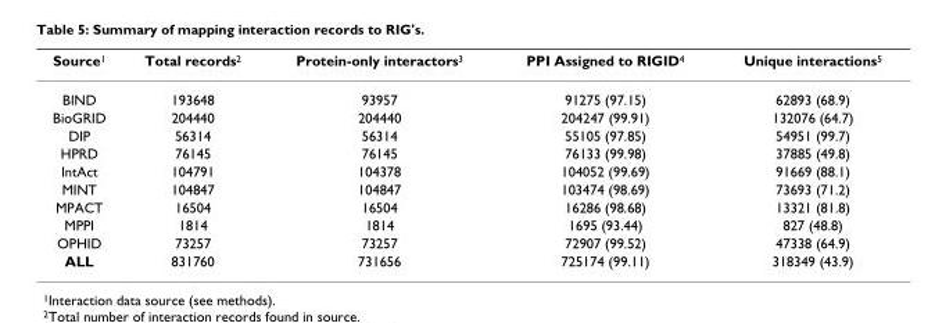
<table><thead><tr><td>Source<sup>1</sup></td><td>Total records<sup>2</sup></td><td>Protein-only interactors<sup>3</sup></td><td>PPI Assigned to RIGID<sup>4</sup></td><td>Unique interactions<sup>5</sup></td></tr></thead><tbody><tr><td>BIND</td><td>193648</td><td>93957</td><td>91275 (97.15)</td><td>62893 (68.9)</td></tr><tr><td>BioGRID</td><td>204440</td><td>204440</td><td>204247 (99.91)</td><td>132076 (64.7)</td></tr><tr><td>DIP</td><td>56314</td><td>56314</td><td>55105 (97.85)</td><td>54951 (99.7)</td></tr><tr><td>HPRD</td><td>76145</td><td>76145</td><td>76133 (99.98)</td><td>37885 (49.8)</td></tr><tr><td>IntAct</td><td>104791</td><td>104378</td><td>104052 (99.69)</td><td>91669 (88.1)</td></tr><tr><td>MINT</td><td>104847</td><td>104847</td><td>103474 (98.69)</td><td>73693 (71.2)</td></tr><tr><td>MPACT</td><td>16504</td><td>16504</td><td>16286 (98.68)</td><td>13321 (81.8)</td></tr><tr><td>MPPI</td><td>1814</td><td>1814</td><td>1695 (93.44)</td><td>827 (48.8)</td></tr><tr><td>OPHID</td><td>73257</td><td>73257</td><td>72907 (99.52)</td><td>47338 (64.9)</td></tr><tr><td>ALL</td><td>831760</td><td>731656</td><td>725174 (99.11)</td><td>318349 (43.9)</td></tr></tbody></table>